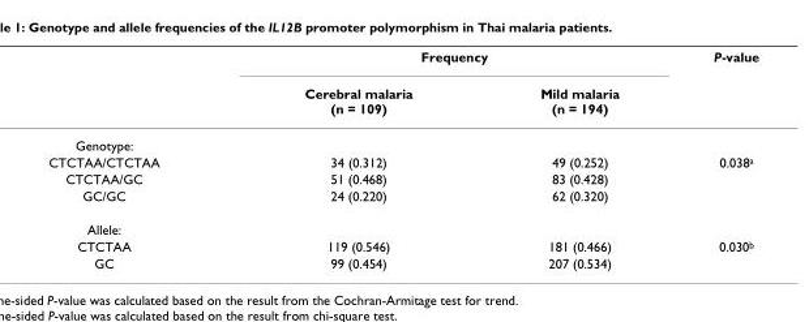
<table><thead><tr><td rowspan="2"></td><td colspan="2">Frequency</td><td rowspan="2">P-value</td></tr><tr><td>Cerebral malaria (n = 109)</td><td>Mild malaria (n = 194)</td></tr></thead><tbody><tr><td colspan="4">Genotype:</td></tr><tr><td>CTCTAA/CTCTAA</td><td>34 (0.312)</td><td>49 (0.252)</td><td>0.038<sup>a</sup></td></tr><tr><td>CTCTAA/GC</td><td>51 (0.468)</td><td>83 (0.428)</td><td></td></tr><tr><td>GC/GC</td><td>24 (0.220)</td><td>62 (0.320)</td><td></td></tr><tr><td colspan="4">Allele:</td></tr><tr><td>CTCTAA</td><td>119 (0.546)</td><td>181 (0.466)</td><td>0.030<sup>b</sup></td></tr><tr><td>GC</td><td>99 (0.454)</td><td>207 (0.534)</td><td></td></tr></tbody></table>